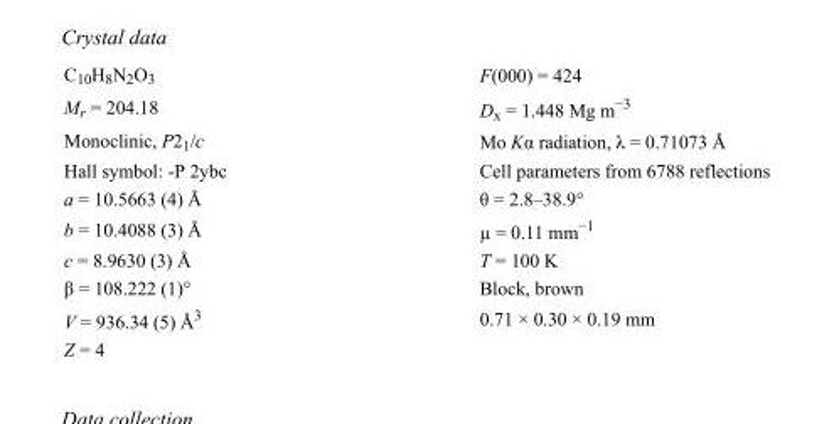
<table><tbody><tr><td>C<sub>10</sub>H<sub>8</sub>N<sub>2</sub>O<sub>3</sub></td><td>F(000) = 424</td></tr><tr><td>M<sub>r</sub> = 204.18</td><td>D<sub>x</sub> = 1.448 Mg m<sup>−3</sup></td></tr><tr><td>Monoclinic, P2<sub>1</sub>/c</td><td>Mo Kα radiation, λ = 0.71073 Å</td></tr><tr><td>Hall symbol: -P 2ybc</td><td>Cell parameters from 6788 reflections</td></tr><tr><td>a = 10.5663 (4) Å</td><td>θ = 2.8–38.9°</td></tr><tr><td>b = 10.4088 (3) Å</td><td>µ = 0.11 mm<sup>−1</sup></td></tr><tr><td>c = 8.9630 (3) Å</td><td>T = 100 K</td></tr><tr><td>β = 108.222 (1)°</td><td>Block, brown</td></tr><tr><td>V = 936.34 (5) Å<sup>3</sup></td><td>0.71 × 0.30 × 0.19 mm</td></tr><tr><td>Z = 4</td><td></td></tr></tbody></table>